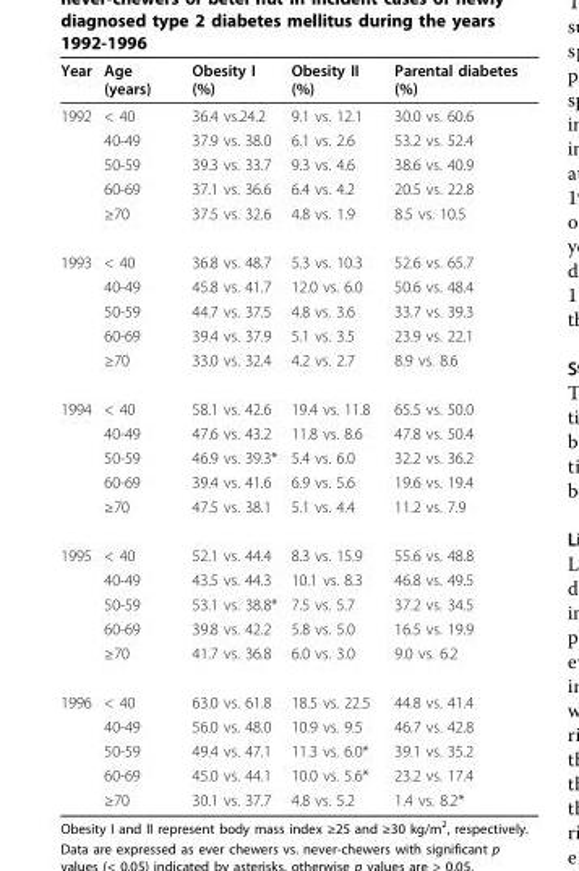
<table><thead><tr><td>Year</td><td>Age (years)</td><td>Obesity I (%)</td><td>Obesity II (%)</td><td>Parental diabetes (%)</td></tr></thead><tbody><tr><td rowspan="5">1992</td><td>&lt; 40</td><td>36.4 vs.24.2</td><td>9.1 vs. 12.1</td><td>30.0 vs. 60.6</td></tr><tr><td>40-49</td><td>37.9 vs. 38.0</td><td>6.1 vs. 2.6</td><td>53.2 vs. 52.4</td></tr><tr><td>50-59</td><td>39.3 vs. 33.7</td><td>9.3 vs. 4.6</td><td>38.6 vs. 40.9</td></tr><tr><td>60-69</td><td>37.1 vs. 36.6</td><td>6.4 vs. 4.2</td><td>20.5 vs. 22.8</td></tr><tr><td>≥70</td><td>37.5 vs. 32.6</td><td>4.8 vs. 1.9</td><td>8.5 vs. 10.5</td></tr><tr><td rowspan="5">1993</td><td>&lt; 40</td><td>36.8 vs. 48.7</td><td>5.3 vs. 10.3</td><td>52.6 vs. 65.7</td></tr><tr><td>40-49</td><td>45.8 vs. 41.7</td><td>12.0 vs. 6.0</td><td>50.6 vs. 48.4</td></tr><tr><td>50-59</td><td>44.7 vs. 37.5</td><td>4.8 vs. 3.6</td><td>33.7 vs. 39.3</td></tr><tr><td>60-69</td><td>39.4 vs. 37.9</td><td>5.1 vs. 3.5</td><td>23.9 vs. 22.1</td></tr><tr><td>≥70</td><td>33.0 vs. 32.4</td><td>4.2 vs. 2.7</td><td>8.9 vs. 8.6</td></tr><tr><td rowspan="5">1994</td><td>&lt; 40</td><td>58.1 vs. 42.6</td><td>19.4 vs. 11.8</td><td>65.5 vs. 50.0</td></tr><tr><td>40-49</td><td>47.6 vs. 43.2</td><td>11.8 vs. 8.6</td><td>47.8 vs. 50.4</td></tr><tr><td>50-59</td><td>46.9 vs. 39.3*</td><td>5.4 vs. 6.0</td><td>32.2 vs. 36.2</td></tr><tr><td>60-69</td><td>39.4 vs. 41.6</td><td>6.9 vs. 5.6</td><td>19.6 vs. 19.4</td></tr><tr><td>≥70</td><td>47.5 vs. 38.1</td><td>5.1 vs. 4.4</td><td>11.2 vs. 7.9</td></tr><tr><td rowspan="5">1995</td><td>&lt; 40</td><td>52.1 vs. 44.4</td><td>8.3 vs. 15.9</td><td>55.6 vs. 48.8</td></tr><tr><td>40-49</td><td>43.5 vs. 44.3</td><td>10.1 vs. 8.3</td><td>46.8 vs. 49.5</td></tr><tr><td>50-59</td><td>53.1 vs. 38.8*</td><td>7.5 vs. 5.7</td><td>37.2 vs. 34.5</td></tr><tr><td>60-69</td><td>39.8 vs. 42.2</td><td>5.8 vs. 5.0</td><td>16.5 vs. 19.9</td></tr><tr><td>≥70</td><td>41.7 vs. 36.8</td><td>6.0 vs. 3.0</td><td>9.0 vs. 6.2</td></tr><tr><td rowspan="5">1996</td><td>&lt; 40</td><td>63.0 vs. 61.8</td><td>18.5 vs. 22.5</td><td>44.8 vs. 41.4</td></tr><tr><td>40-49</td><td>56.0 vs. 48.0</td><td>10.9 vs. 9.5</td><td>46.7 vs. 42.8</td></tr><tr><td>50-59</td><td>49.4 vs. 47.1</td><td>11.3 vs. 6.0*</td><td>39.1 vs. 35.2</td></tr><tr><td>60-69</td><td>45.0 vs. 44.1</td><td>10.0 vs. 5.6*</td><td>23.2 vs. 17.4</td></tr><tr><td>≥70</td><td>30.1 vs. 37.7</td><td>4.8 vs. 5.2</td><td>1.4 vs. 8.2*</td></tr></tbody></table>